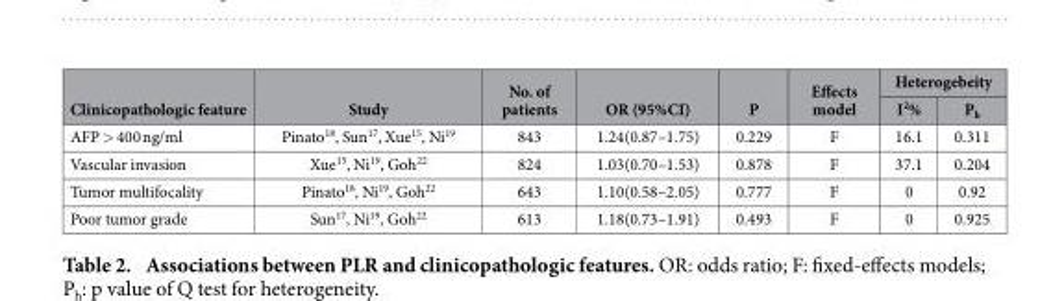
<table><thead><tr><td rowspan="2">Clinicopathologic feature</td><td rowspan="2">Study</td><td rowspan="2">No. of patients</td><td rowspan="2">OR (95%CI)</td><td rowspan="2">P</td><td rowspan="2">Effects model</td><td colspan="2">Heterogebeity</td></tr><tr><td>I<sup>2</sup>%</td><td>P<sub>h</sub></td></tr></thead><tbody><tr><td>AFP &gt; 400 ng/ml</td><td>Pinato<sup>18</sup>, Sun<sup>17</sup>, Xue<sup>15</sup>, Ni<sup>19</sup></td><td>843</td><td>1.24(0.87–1.75)</td><td>0.229</td><td>F</td><td>16.1</td><td>0.311</td></tr><tr><td>Vascular invasion</td><td>Xue<sup>15</sup>, Ni<sup>19</sup>, Goh<sup>22</sup></td><td>824</td><td>1.03(0.70–1.53)</td><td>0.878</td><td>F</td><td>37.1</td><td>0.204</td></tr><tr><td>Tumor multifocality</td><td>Pinato<sup>18</sup>, Ni<sup>19</sup>, Goh<sup>22</sup></td><td>643</td><td>1.10(0.58–2.05)</td><td>0.777</td><td>F</td><td>0</td><td>0.92</td></tr><tr><td>Poor tumor grade</td><td>Sun<sup>17</sup>, Ni<sup>19</sup>, Goh<sup>22</sup></td><td>613</td><td>1.18(0.73–1.91)</td><td>0.493</td><td>F</td><td>0</td><td>0.925</td></tr></tbody></table>